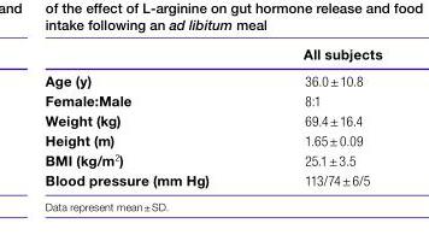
<table><thead><tr><td></td><td>All subjects</td></tr></thead><tbody><tr><td>Age (y)</td><td>36.0 ± 10.8</td></tr><tr><td>Female:Male</td><td>8:1</td></tr><tr><td>Weight (kg)</td><td>69.4 ± 16.4</td></tr><tr><td>Height (m)</td><td>1.65 ± 0.09</td></tr><tr><td>BMI (kg/m<sup>2</sup>)</td><td>25.1 ± 3.5</td></tr><tr><td>Blood pressure (mm Hg)</td><td>113/74 ± 6/5</td></tr></tbody></table>